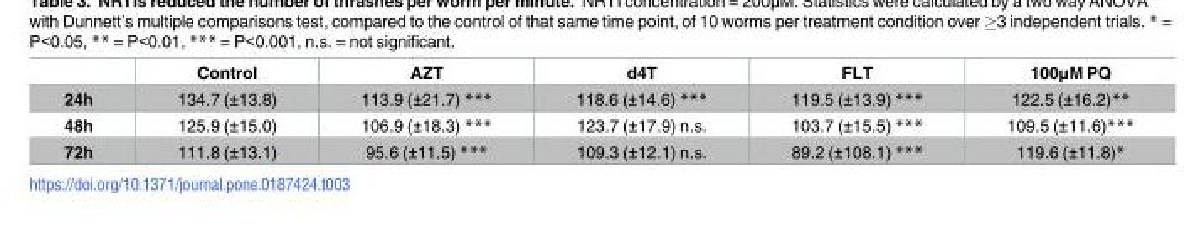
<table><thead><tr><td></td><td>Control</td><td>AZT</td><td>d4T</td><td>FLT</td><td>100μM PQ</td></tr></thead><tbody><tr><td>24h</td><td>134.7 (±13.8)</td><td>113.9 (±21.7) ***</td><td>118.6 (±14.6) ***</td><td>119.5 (±13.9) ***</td><td>122.5 (±16.2)**</td></tr><tr><td>48h</td><td>125.9 (±15.0)</td><td>106.9 (±18.3) ***</td><td>123.7 (±17.9) n.s.</td><td>103.7 (±15.5) ***</td><td>109.5 (±11.6)***</td></tr><tr><td>72h</td><td>111.8 (±13.1)</td><td>95.6 (±11.5) ***</td><td>109.3 (±12.1) n.s.</td><td>89.2 (±108.1) ***</td><td>119.6 (±11.8)*</td></tr></tbody></table>